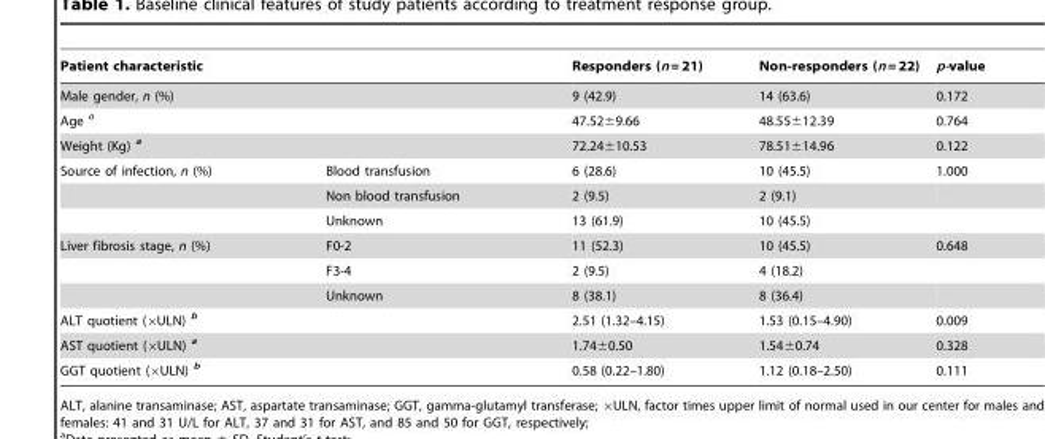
<table><thead><tr><td colspan="2">Patient characteristic</td><td>Responders (n = 21)</td><td>Non-responders (n = 22)</td><td>p-value</td></tr></thead><tbody><tr><td colspan="2">Male gender, n (%)</td><td>9 (42.9)</td><td>14 (63.6)</td><td>0.172</td></tr><tr><td colspan="2">Age a</td><td>47.52±9.66</td><td>48.55±12.39</td><td>0.764</td></tr><tr><td colspan="2">Weight (Kg) a</td><td>72.24±10.53</td><td>78.51±14.96</td><td>0.122</td></tr><tr><td rowspan="3">Source of infection, n (%)</td><td>Blood transfusion</td><td>6 (28.6)</td><td>10 (45.5)</td><td>1.000</td></tr><tr><td>Non blood transfusion</td><td>2 (9.5)</td><td>2 (9.1)</td><td></td></tr><tr><td>Unknown</td><td>13 (61.9)</td><td>10 (45.5)</td><td></td></tr><tr><td rowspan="3">Liver fibrosis stage, n (%)</td><td>F0-2</td><td>11 (52.3)</td><td>10 (45.5)</td><td>0.648</td></tr><tr><td>F3-4</td><td>2 (9.5)</td><td>4 (18.2)</td><td></td></tr><tr><td>Unknown</td><td>8 (38.1)</td><td>8 (36.4)</td><td></td></tr><tr><td colspan="2">ALT quotient (×ULN) b</td><td>2.51 (1.32–4.15)</td><td>1.53 (0.15–4.90)</td><td>0.009</td></tr><tr><td colspan="2">AST quotient (×ULN) a</td><td>1.74±0.50</td><td>1.54±0.74</td><td>0.328</td></tr><tr><td colspan="2">GGT quotient (×ULN) b</td><td>0.58 (0.22–1.80)</td><td>1.12 (0.18–2.50)</td><td>0.111</td></tr></tbody></table>